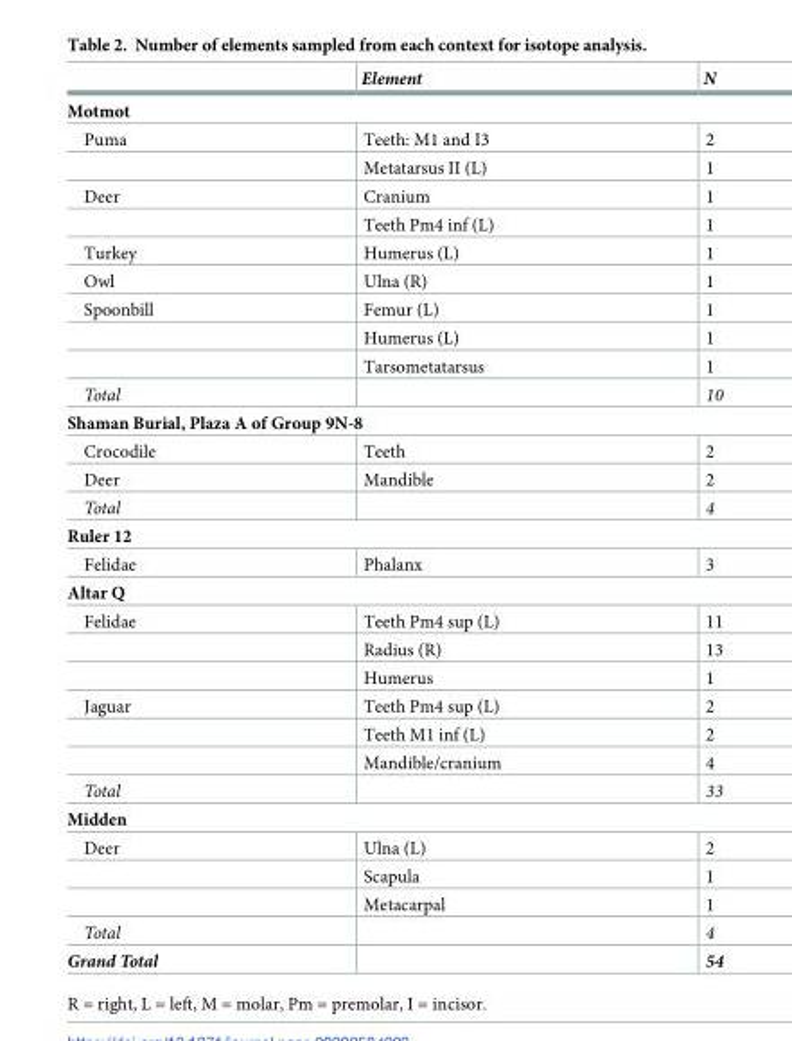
<table><thead><tr><td></td><td>Element</td><td>N</td></tr></thead><tbody><tr><td colspan="3">Motmot</td></tr><tr><td rowspan="2">Puma</td><td>Teeth: M1 and I3</td><td>2</td></tr><tr><td>Metatarsus II (L)</td><td>1</td></tr><tr><td rowspan="2">Deer</td><td>Cranium</td><td>1</td></tr><tr><td>Teeth Pm4 inf (L)</td><td>1</td></tr><tr><td>Turkey</td><td>Humerus (L)</td><td>1</td></tr><tr><td>Owl</td><td>Ulna (R)</td><td>1</td></tr><tr><td rowspan="3">Spoonbill</td><td>Femur (L)</td><td>1</td></tr><tr><td>Humerus (L)</td><td>1</td></tr><tr><td>Tarsometatarsus</td><td>1</td></tr><tr><td>Total</td><td></td><td>10</td></tr><tr><td colspan="3">Shaman Burial, Plaza A of Group 9N-8</td></tr><tr><td>Crocodile</td><td>Teeth</td><td>2</td></tr><tr><td>Deer</td><td>Mandible</td><td>2</td></tr><tr><td>Total</td><td></td><td>4</td></tr><tr><td colspan="3">Ruler 12</td></tr><tr><td>Felidae</td><td>Phalanx</td><td>3</td></tr><tr><td colspan="3">Altar Q</td></tr><tr><td rowspan="3">Felidae</td><td>Teeth Pm4 sup (L)</td><td>11</td></tr><tr><td>Radius (R)</td><td>13</td></tr><tr><td>Humerus</td><td>1</td></tr><tr><td rowspan="3">Jaguar</td><td>Teeth Pm4 sup (L)</td><td>2</td></tr><tr><td>Teeth M1 inf (L)</td><td>2</td></tr><tr><td>Mandible/cranium</td><td>4</td></tr><tr><td>Total</td><td></td><td>33</td></tr><tr><td colspan="3">Midden</td></tr><tr><td rowspan="3">Deer</td><td>Ulna (L)</td><td>2</td></tr><tr><td>Scapula</td><td>1</td></tr><tr><td>Metacarpal</td><td>1</td></tr><tr><td>Total</td><td></td><td>4</td></tr><tr><td>Grand Total</td><td></td><td>54</td></tr></tbody></table>